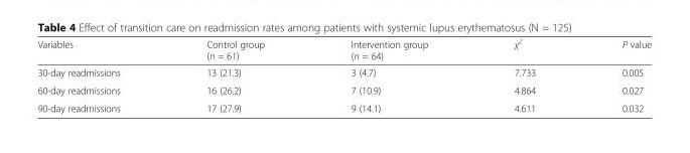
<table><thead><tr><td>Variables</td><td>Control group (n = 61)</td><td>Intervention group (n = 64)</td><td>χ<sup>2</sup></td><td>P value</td></tr></thead><tbody><tr><td>30-day readmissions</td><td>13 (21.3)</td><td>3 (4.7)</td><td>7.733</td><td>0.005</td></tr><tr><td>60-day readmissions</td><td>16 (26.2)</td><td>7 (10.9)</td><td>4.864</td><td>0.027</td></tr><tr><td>90-day readmissions</td><td>17 (27.9)</td><td>9 (14.1)</td><td>4.611</td><td>0.032</td></tr></tbody></table>